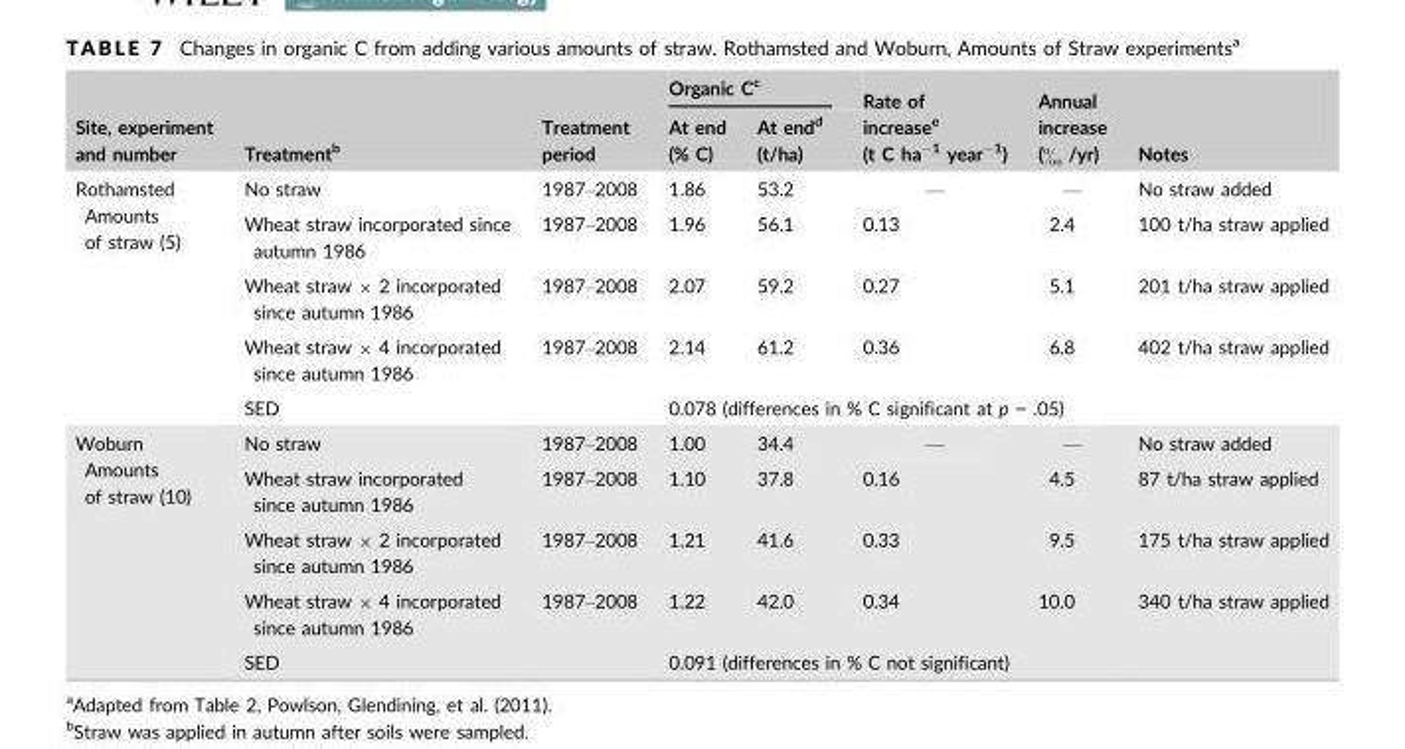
<table><thead><tr><td rowspan="2">Site, experiment and number</td><td rowspan="2">Treatment<sup>b</sup></td><td rowspan="2">Treatment period</td><td colspan="2">Organic C<sup>c</sup></td><td rowspan="2">Rate of increase<sup>e</sup> (t C ha<sup>−1</sup> year<sup>−1</sup>)</td><td rowspan="2">Annual increase (‰ /yr)</td><td rowspan="2">Notes</td></tr><tr><td>At end (% C)</td><td>At end<sup>d</sup> (t/ha)</td></tr></thead><tbody><tr><td rowspan="5">Rothamsted Amounts of straw (5)</td><td>No straw</td><td>1987–2008</td><td>1.86</td><td>53.2</td><td>—</td><td>—</td><td>No straw added</td></tr><tr><td>Wheat straw incorporated since autumn 1986</td><td>1987–2008</td><td>1.96</td><td>56.1</td><td>0.13</td><td>2.4</td><td>100 t/ha straw applied</td></tr><tr><td>Wheat straw × 2 incorporated since autumn 1986</td><td>1987–2008</td><td>2.07</td><td>59.2</td><td>0.27</td><td>5.1</td><td>201 t/ha straw applied</td></tr><tr><td>Wheat straw × 4 incorporated since autumn 1986</td><td>1987–2008</td><td>2.14</td><td>61.2</td><td>0.36</td><td>6.8</td><td>402 t/ha straw applied</td></tr><tr><td>SED</td><td></td><td colspan="4">0.078 (differences in % C significant at p = .05)</td><td></td></tr><tr><td rowspan="5">Woburn Amounts of straw (10)</td><td>No straw</td><td>1987–2008</td><td>1.00</td><td>34.4</td><td>—</td><td>—</td><td>No straw added</td></tr><tr><td>Wheat straw incorporated since autumn 1986</td><td>1987–2008</td><td>1.10</td><td>37.8</td><td>0.16</td><td>4.5</td><td>87 t/ha straw applied</td></tr><tr><td>Wheat straw × 2 incorporated since autumn 1986</td><td>1987–2008</td><td>1.21</td><td>41.6</td><td>0.33</td><td>9.5</td><td>175 t/ha straw applied</td></tr><tr><td>Wheat straw × 4 incorporated since autumn 1986</td><td>1987–2008</td><td>1.22</td><td>42.0</td><td>0.34</td><td>10.0</td><td>340 t/ha straw applied</td></tr><tr><td>SED</td><td></td><td colspan="4">0.091 (differences in % C not significant)</td><td></td></tr></tbody></table>